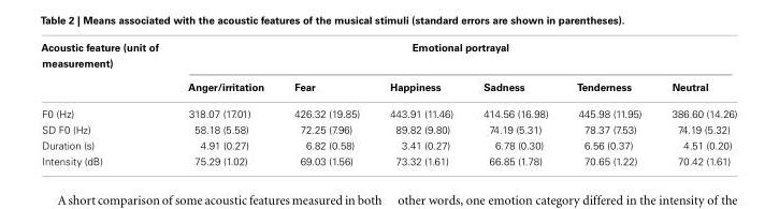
<table><thead><tr><td rowspan="2">Acoustic feature (unit of measurement)</td><td colspan="6">Emotional portrayal</td></tr><tr><td>Anger/irritation</td><td>Fear</td><td>Happiness</td><td>Sadness</td><td>Tenderness</td><td>Neutral</td></tr></thead><tbody><tr><td>F0 (Hz)</td><td>318.07 (17.01)</td><td>426.32 (19.85)</td><td>443.91 (11.46)</td><td>414.56 (16.98)</td><td>445.98 (11.95)</td><td>386.60 (14.26)</td></tr><tr><td>SD F0 (Hz)</td><td>58.18 (5.58)</td><td>72.25 (7.96)</td><td>89.82 (9.80)</td><td>74.19 (5.31)</td><td>78.37 (7.53)</td><td>74.19 (5.32)</td></tr><tr><td>Duration (s)</td><td>4.91 (0.27)</td><td>6.82 (0.58)</td><td>3.41 (0.27)</td><td>6.78 (0.30)</td><td>6.56 (0.37)</td><td>4.51 (0.20)</td></tr><tr><td>Intensity (dB)</td><td>75.29 (1.02)</td><td>69.03 (1.56)</td><td>73.32 (1.61)</td><td>66.85 (1.78)</td><td>70.65 (1.22)</td><td>70.42 (1.61)</td></tr></tbody></table>